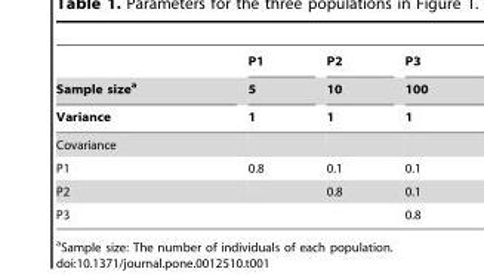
<table><thead><tr><td rowspan="3">Sample size<sup>a</sup> Variance</td><td rowspan="3">P1 5 1</td><td rowspan="3">P2 10 1</td><td rowspan="3">P3 100 1</td></tr><tr></tr><tr></tr></thead><tbody><tr><td colspan="4">Covariance</td></tr><tr><td>P1</td><td>0.8</td><td>0.1</td><td>0.1</td></tr><tr><td>P2</td><td></td><td>0.8</td><td>0.1</td></tr><tr><td>P3</td><td></td><td></td><td>0.8</td></tr></tbody></table>